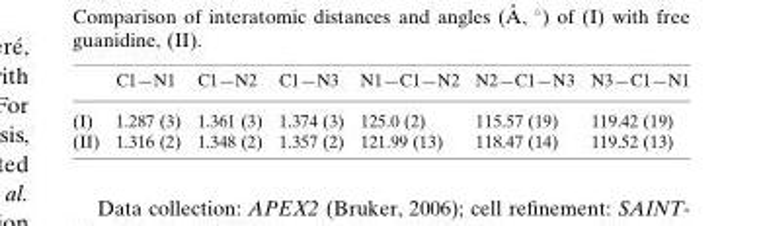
<table><thead><tr><td></td><td>C1—N1</td><td>C1—N2</td><td>C1—N3</td><td>N1—C1—N2</td><td>N2—C1—N3</td><td>N3—C1—N1</td></tr></thead><tbody><tr><td>(I)</td><td>1.287 (3)</td><td>1.361 (3)</td><td>1.374 (3)</td><td>125.0 (2)</td><td>115.57 (19)</td><td>119.42 (19)</td></tr><tr><td>(II)</td><td>1.316 (2)</td><td>1.348 (2)</td><td>1.357 (2)</td><td>121.99 (13)</td><td>118.47 (14)</td><td>119.52 (13)</td></tr></tbody></table>